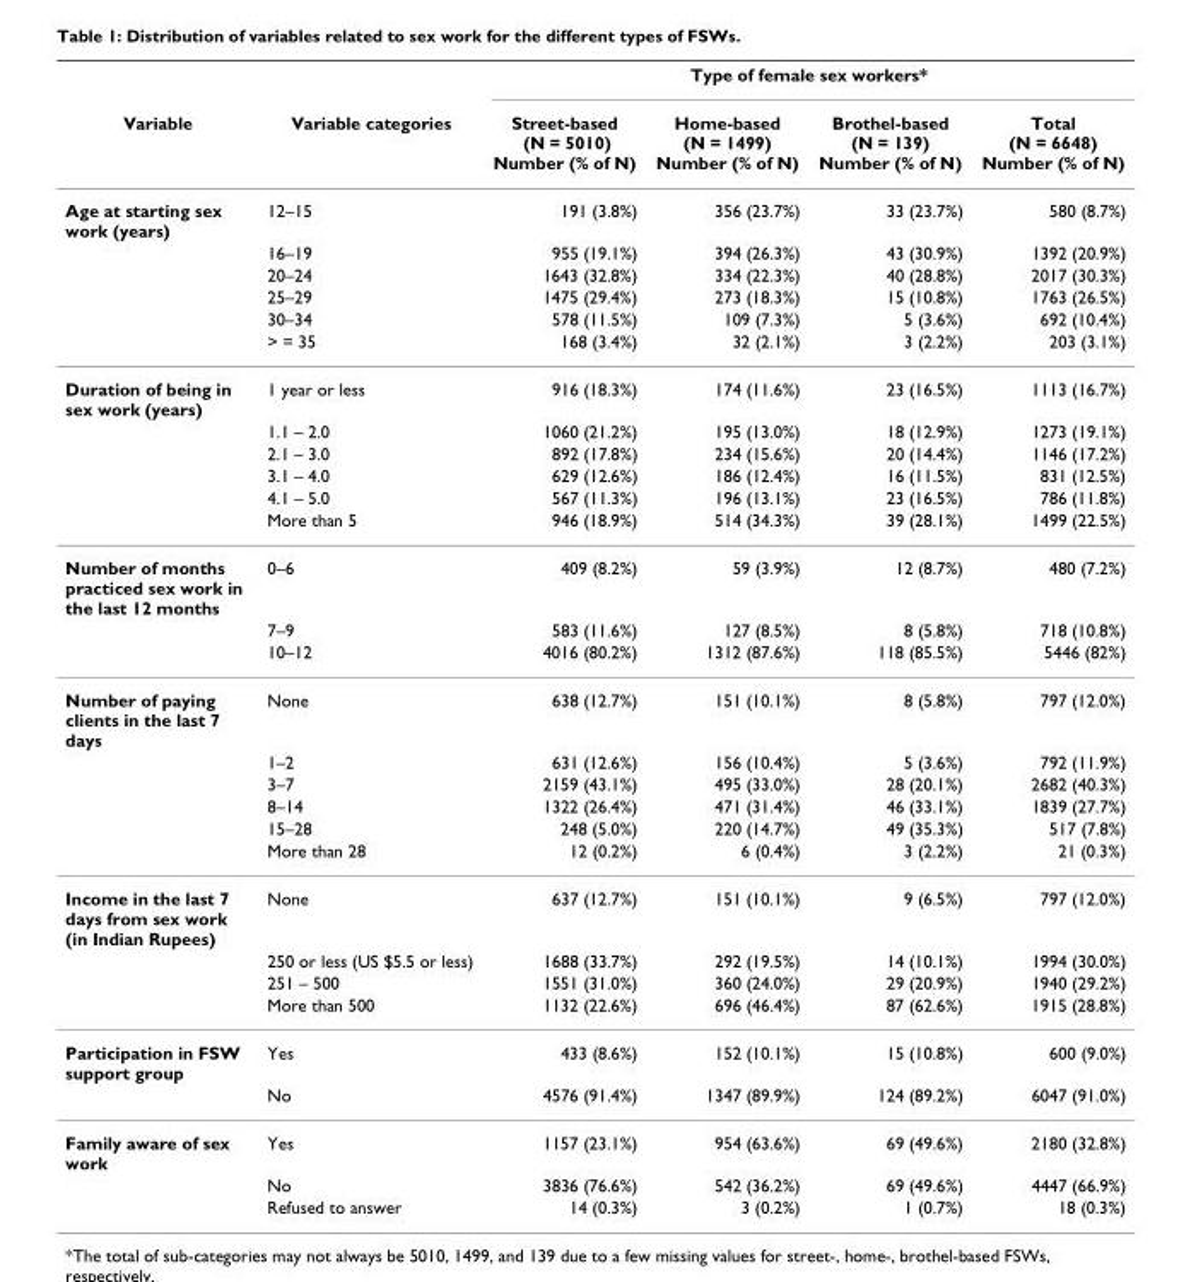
<table><thead><tr><td rowspan="2">Variable</td><td rowspan="2">Variable categories</td><td colspan="4">Type of female sex workers*</td></tr><tr><td>Street-based (N = 5010) Number (% of N)</td><td>Home-based (N = 1499) Number (% of N)</td><td>Brothel-based (N = 139) Number (% of N)</td><td>Total (N = 6648) Number (% of N)</td></tr></thead><tbody><tr><td rowspan="6">Age at starting sex work (years)</td><td>12–15</td><td>191 (3.8%)</td><td>356 (23.7%)</td><td>33 (23.7%)</td><td>580 (8.7%)</td></tr><tr><td>16–19</td><td>955 (19.1%)</td><td>394 (26.3%)</td><td>43 (30.9%)</td><td>1392 (20.9%)</td></tr><tr><td>20–24</td><td>1643 (32.8%)</td><td>334 (22.3%)</td><td>40 (28.8%)</td><td>2017 (30.3%)</td></tr><tr><td>25–29</td><td>1475 (29.4%)</td><td>273 (18.3%)</td><td>15 (10.8%)</td><td>1763 (26.5%)</td></tr><tr><td>30–34</td><td>578 (11.5%)</td><td>109 (7.3%)</td><td>5 (3.6%)</td><td>692 (10.4%)</td></tr><tr><td>&gt; = 35</td><td>168 (3.4%)</td><td>32 (2.1%)</td><td>3 (2.2%)</td><td>203 (3.1%)</td></tr><tr><td rowspan="6">Duration of being in sex work (years)</td><td>1 year or less</td><td>916 (18.3%)</td><td>174 (11.6%)</td><td>23 (16.5%)</td><td>1113 (16.7%)</td></tr><tr><td>1.1 – 2.0</td><td>1060 (21.2%)</td><td>195 (13.0%)</td><td>18 (12.9%)</td><td>1273 (19.1%)</td></tr><tr><td>2.1 – 3.0</td><td>892 (17.8%)</td><td>234 (15.6%)</td><td>20 (14.4%)</td><td>1146 (17.2%)</td></tr><tr><td>3.1 – 4.0</td><td>629 (12.6%)</td><td>186 (12.4%)</td><td>16 (11.5%)</td><td>831 (12.5%)</td></tr><tr><td>4.1 – 5.0</td><td>567 (11.3%)</td><td>196 (13.1%)</td><td>23 (16.5%)</td><td>786 (11.8%)</td></tr><tr><td>More than 5</td><td>946 (18.9%)</td><td>514 (34.3%)</td><td>39 (28.1%)</td><td>1499 (22.5%)</td></tr><tr><td rowspan="3">Number of months practiced sex work in the last 12 months</td><td>0–6</td><td>409 (8.2%)</td><td>59 (3.9%)</td><td>12 (8.7%)</td><td>480 (7.2%)</td></tr><tr><td>7–9</td><td>583 (11.6%)</td><td>127 (8.5%)</td><td>8 (5.8%)</td><td>718 (10.8%)</td></tr><tr><td>10–12</td><td>4016 (80.2%)</td><td>1312 (87.6%)</td><td>118 (85.5%)</td><td>5446 (82%)</td></tr><tr><td rowspan="6">Number of paying clients in the last 7 days</td><td>None</td><td>638 (12.7%)</td><td>151 (10.1%)</td><td>8 (5.8%)</td><td>797 (12.0%)</td></tr><tr><td>1–2</td><td>631 (12.6%)</td><td>156 (10.4%)</td><td>5 (3.6%)</td><td>792 (11.9%)</td></tr><tr><td>3–7</td><td>2159 (43.1%)</td><td>495 (33.0%)</td><td>28 (20.1%)</td><td>2682 (40.3%)</td></tr><tr><td>8–14</td><td>1322 (26.4%)</td><td>471 (31.4%)</td><td>46 (33.1%)</td><td>1839 (27.7%)</td></tr><tr><td>15–28</td><td>248 (5.0%)</td><td>220 (14.7%)</td><td>49 (35.3%)</td><td>517 (7.8%)</td></tr><tr><td>More than 28</td><td>12 (0.2%)</td><td>6 (0.4%)</td><td>3 (2.2%)</td><td>21 (0.3%)</td></tr><tr><td rowspan="4">Income in the last 7 days from sex work (in Indian Rupees)</td><td>None</td><td>637 (12.7%)</td><td>151 (10.1%)</td><td>9 (6.5%)</td><td>797 (12.0%)</td></tr><tr><td>250 or less (US $5.5 or less)</td><td>1688 (33.7%)</td><td>292 (19.5%)</td><td>14 (10.1%)</td><td>1994 (30.0%)</td></tr><tr><td>251 – 500</td><td>1551 (31.0%)</td><td>360 (24.0%)</td><td>29 (20.9%)</td><td>1940 (29.2%)</td></tr><tr><td>More than 500</td><td>1132 (22.6%)</td><td>696 (46.4%)</td><td>87 (62.6%)</td><td>1915 (28.8%)</td></tr><tr><td rowspan="2">Participation in FSW support group</td><td>Yes</td><td>433 (8.6%)</td><td>152 (10.1%)</td><td>15 (10.8%)</td><td>600 (9.0%)</td></tr><tr><td>No</td><td>4576 (91.4%)</td><td>1347 (89.9%)</td><td>124 (89.2%)</td><td>6047 (91.0%)</td></tr><tr><td rowspan="3">Family aware of sex work</td><td>Yes</td><td>1157 (23.1%)</td><td>954 (63.6%)</td><td>69 (49.6%)</td><td>2180 (32.8%)</td></tr><tr><td>No</td><td>3836 (76.6%)</td><td>542 (36.2%)</td><td>69 (49.6%)</td><td>4447 (66.9%)</td></tr><tr><td>Refused to answer</td><td>14 (0.3%)</td><td>3 (0.2%)</td><td>1 (0.7%)</td><td>18 (0.3%)</td></tr></tbody></table>